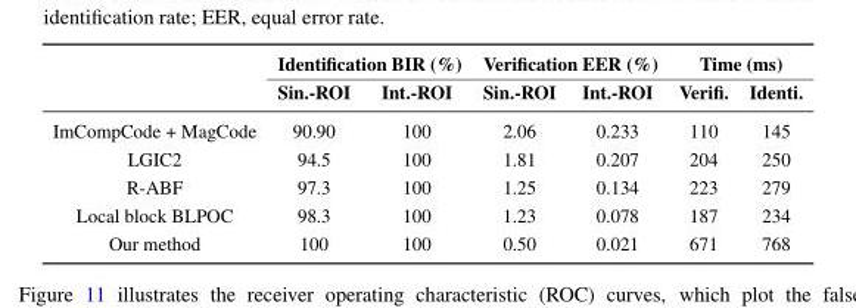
<table><thead><tr><td rowspan="2"></td><td colspan="2">Identification BIR (%)</td><td colspan="2">Verification EER (%)</td><td colspan="2">Time (ms)</td></tr><tr><td>Sin.-ROI</td><td>Int.-ROI</td><td>Sin.-ROI</td><td>Int.-ROI</td><td>Verifi.</td><td>Identi.</td></tr></thead><tbody><tr><td>ImCompCode + MagCode</td><td>90.90</td><td>100</td><td>2.06</td><td>0.233</td><td>110</td><td>145</td></tr><tr><td>LGIC2</td><td>94.5</td><td>100</td><td>1.81</td><td>0.207</td><td>204</td><td>250</td></tr><tr><td>R-ABF</td><td>97.3</td><td>100</td><td>1.25</td><td>0.134</td><td>223</td><td>279</td></tr><tr><td>Local block BLPOC</td><td>98.3</td><td>100</td><td>1.23</td><td>0.078</td><td>187</td><td>234</td></tr><tr><td>Our method</td><td>100</td><td>100</td><td>0.50</td><td>0.021</td><td>671</td><td>768</td></tr></tbody></table>